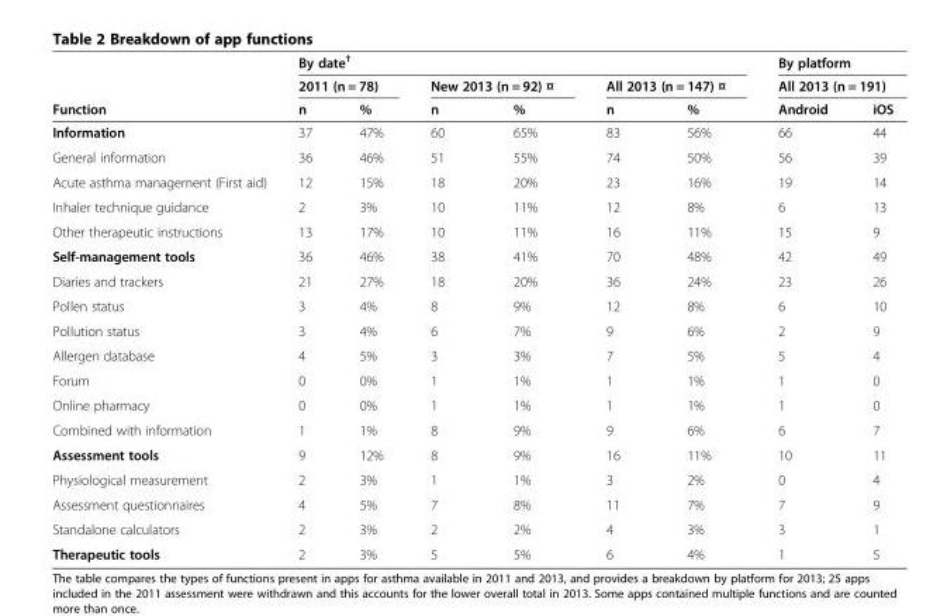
<table><thead><tr><td rowspan="3">Function</td><td colspan="6">By date<sup>†</sup></td><td rowspan="2" colspan="2">By platform All 2013 (n = 191)</td></tr><tr><td colspan="2">2011 (n = 78)</td><td colspan="2">New 2013 (n = 92) ¤</td><td colspan="2">All 2013 (n = 147) ¤</td></tr><tr><td>n</td><td>%</td><td>n</td><td>%</td><td>n</td><td>%</td><td>Android</td><td>iOS</td></tr></thead><tbody><tr><td>Information</td><td>37</td><td>47%</td><td>60</td><td>65%</td><td>83</td><td>56%</td><td>66</td><td>44</td></tr><tr><td>General information</td><td>36</td><td>46%</td><td>51</td><td>55%</td><td>74</td><td>50%</td><td>56</td><td>39</td></tr><tr><td>Acute asthma management (First aid)</td><td>12</td><td>15%</td><td>18</td><td>20%</td><td>23</td><td>16%</td><td>19</td><td>14</td></tr><tr><td>Inhaler technique guidance</td><td>2</td><td>3%</td><td>10</td><td>11%</td><td>12</td><td>8%</td><td>6</td><td>13</td></tr><tr><td>Other therapeutic instructions</td><td>13</td><td>17%</td><td>10</td><td>11%</td><td>16</td><td>11%</td><td>15</td><td>9</td></tr><tr><td>Self-management tools</td><td>36</td><td>46%</td><td>38</td><td>41%</td><td>70</td><td>48%</td><td>42</td><td>49</td></tr><tr><td>Diaries and trackers</td><td>21</td><td>27%</td><td>18</td><td>20%</td><td>36</td><td>24%</td><td>23</td><td>26</td></tr><tr><td>Pollen status</td><td>3</td><td>4%</td><td>8</td><td>9%</td><td>12</td><td>8%</td><td>6</td><td>10</td></tr><tr><td>Pollution status</td><td>3</td><td>4%</td><td>6</td><td>7%</td><td>9</td><td>6%</td><td>2</td><td>9</td></tr><tr><td>Allergen database</td><td>4</td><td>5%</td><td>3</td><td>3%</td><td>7</td><td>5%</td><td>5</td><td>4</td></tr><tr><td>Forum</td><td>0</td><td>0%</td><td>1</td><td>1%</td><td>1</td><td>1%</td><td>1</td><td>0</td></tr><tr><td>Online pharmacy</td><td>0</td><td>0%</td><td>1</td><td>1%</td><td>1</td><td>1%</td><td>1</td><td>0</td></tr><tr><td>Combined with information</td><td>1</td><td>1%</td><td>8</td><td>9%</td><td>9</td><td>6%</td><td>6</td><td>7</td></tr><tr><td>Assessment tools</td><td>9</td><td>12%</td><td>8</td><td>9%</td><td>16</td><td>11%</td><td>10</td><td>11</td></tr><tr><td>Physiological measurement</td><td>2</td><td>3%</td><td>1</td><td>1%</td><td>3</td><td>2%</td><td>0</td><td>4</td></tr><tr><td>Assessment questionnaires</td><td>4</td><td>5%</td><td>7</td><td>8%</td><td>11</td><td>7%</td><td>7</td><td>9</td></tr><tr><td>Standalone calculators</td><td>2</td><td>3%</td><td>2</td><td>2%</td><td>4</td><td>3%</td><td>3</td><td>1</td></tr><tr><td>Therapeutic tools</td><td>2</td><td>3%</td><td>5</td><td>5%</td><td>6</td><td>4%</td><td>1</td><td>5</td></tr></tbody></table>